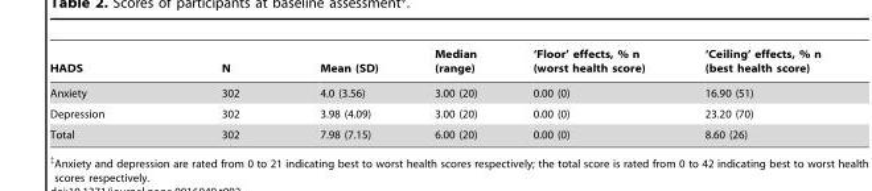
<table><thead><tr><td>HADS</td><td>N</td><td>Mean (SD)</td><td>Median (range)</td><td>‘Floor’ effects, % n (worst health score)</td><td>‘Ceiling’ effects, % n (best health score)</td></tr></thead><tbody><tr><td>Anxiety</td><td>302</td><td>4.0 (3.56)</td><td>3.00 (20)</td><td>0.00 (0)</td><td>16.90 (51)</td></tr><tr><td>Depression</td><td>302</td><td>3.98 (4.09)</td><td>3.00 (20)</td><td>0.00 (0)</td><td>23.20 (70)</td></tr><tr><td>Total</td><td>302</td><td>7.98 (7.15)</td><td>6.00 (20)</td><td>0.00 (0)</td><td>8.60 (26)</td></tr></tbody></table>